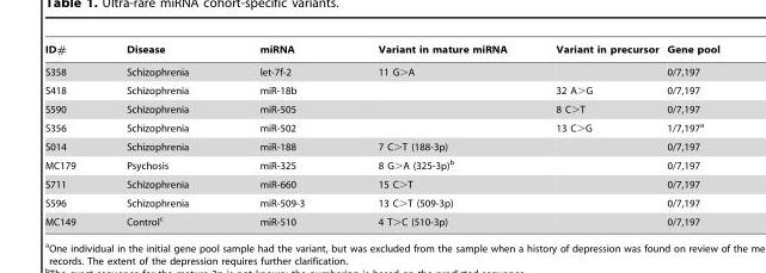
<table><thead><tr><td>ID#</td><td>Disease</td><td>miRNA</td><td>Variant in mature miRNA</td><td>Variant in precursor</td><td>Gene pool</td></tr></thead><tbody><tr><td>S358</td><td>Schizophrenia</td><td>let-7f-2</td><td>11 G&gt;A</td><td></td><td>0/7,197</td></tr><tr><td>S418</td><td>Schizophrenia</td><td>miR-18b</td><td></td><td>32 A&gt;G</td><td>0/7,197</td></tr><tr><td>S590</td><td>Schizophrenia</td><td>miR-505</td><td></td><td>8 C&gt;T</td><td>0/7,197</td></tr><tr><td>S356</td><td>Schizophrenia</td><td>miR-502</td><td></td><td>13 C&gt;G</td><td>1/7,197<sup>a</sup></td></tr><tr><td>S014</td><td>Schizophrenia</td><td>miR-188</td><td>7 C&gt;T (188-3p)</td><td></td><td>0/7,197</td></tr><tr><td>MC179</td><td>Psychosis</td><td>miR-325</td><td>8 G&gt;A (325-3p)<sup>b</sup></td><td></td><td>0/7,197</td></tr><tr><td>S711</td><td>Schizophrenia</td><td>miR-660</td><td>15 C&gt;T</td><td></td><td>0/7,197</td></tr><tr><td>S596</td><td>Schizophrenia</td><td>miR-509-3</td><td>13 C&gt;T (509-3p)</td><td></td><td>0/7,197</td></tr><tr><td>MC149</td><td>Control<sup>c</sup></td><td>miR-510</td><td>4 T&gt;C (510-3p)</td><td></td><td>0/7,197</td></tr></tbody></table>